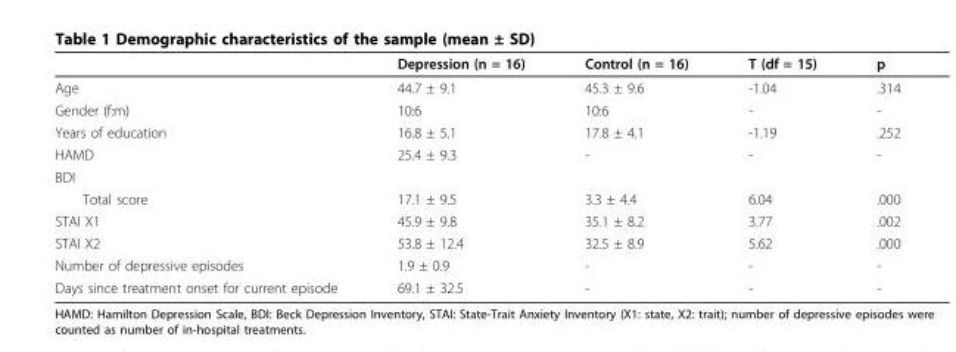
<table><thead><tr><td></td><td>Depression (n = 16)</td><td>Control (n = 16)</td><td>T (df = 15)</td><td>p</td></tr></thead><tbody><tr><td>Age</td><td>44.7 ± 9.1</td><td>45.3 ± 9.6</td><td>-1.04</td><td>.314</td></tr><tr><td>Gender (f:m)</td><td>10:6</td><td>10:6</td><td>-</td><td>-</td></tr><tr><td>Years of education</td><td>16.8 ± 5.1</td><td>17.8 ± 4.1</td><td>-1.19</td><td>.252</td></tr><tr><td>HAMD</td><td>25.4 ± 9.3</td><td>-</td><td>-</td><td>-</td></tr><tr><td colspan="5">BDI</td></tr><tr><td>Total score</td><td>17.1 ± 9.5</td><td>3.3 ± 4.4</td><td>6.04</td><td>.000</td></tr><tr><td>STAI X1</td><td>45.9 ± 9.8</td><td>35.1 ± 8.2</td><td>3.77</td><td>.002</td></tr><tr><td>STAI X2</td><td>53.8 ± 12.4</td><td>32.5 ± 8.9</td><td>5.62</td><td>.000</td></tr><tr><td>Number of depressive episodes</td><td>1.9 ± 0.9</td><td>-</td><td>-</td><td>-</td></tr><tr><td>Days since treatment onset for current episode</td><td>69.1 ± 32.5</td><td>-</td><td>-</td><td>-</td></tr></tbody></table>